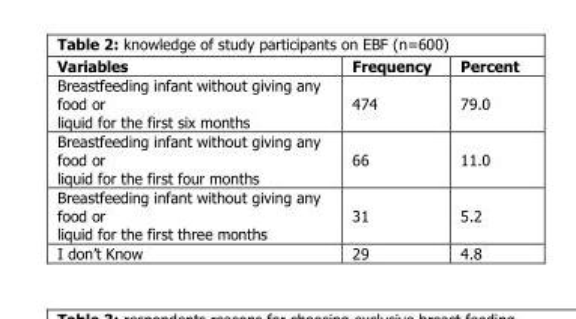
<table><thead><tr><td>Variables</td><td>Frequency</td><td>Percent</td></tr></thead><tbody><tr><td>Breastfeeding infant without giving any food or liquid for the first six months</td><td>474</td><td>79.0</td></tr><tr><td>Breastfeeding infant without giving any food or liquid for the first four months</td><td>66</td><td>11.0</td></tr><tr><td>Breastfeeding infant without giving any food or liquid for the first three months</td><td>31</td><td>5.2</td></tr><tr><td>I don’t Know</td><td>29</td><td>4.8</td></tr></tbody></table>